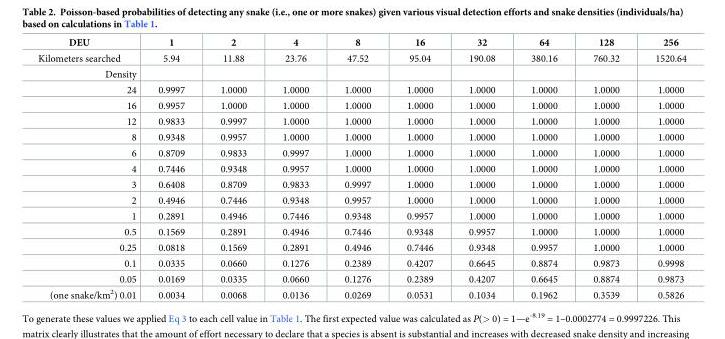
<table><thead><tr><td>DEU</td><td>1</td><td>2</td><td>4</td><td>8</td><td>16</td><td>32</td><td>64</td><td>128</td><td>256</td></tr></thead><tbody><tr><td>Kilometers searched</td><td>5.94</td><td>11.88</td><td>23.76</td><td>47.52</td><td>95.04</td><td>190.08</td><td>380.16</td><td>760.32</td><td>1520.64</td></tr><tr><td colspan="10">Density</td></tr><tr><td>24</td><td>0.9997</td><td>1.0000</td><td>1.0000</td><td>1.0000</td><td>1.0000</td><td>1.0000</td><td>1.0000</td><td>1.0000</td><td>1.0000</td></tr><tr><td>16</td><td>0.9957</td><td>1.0000</td><td>1.0000</td><td>1.0000</td><td>1.0000</td><td>1.0000</td><td>1.0000</td><td>1.0000</td><td>1.0000</td></tr><tr><td>12</td><td>0.9833</td><td>0.9997</td><td>1.0000</td><td>1.0000</td><td>1.0000</td><td>1.0000</td><td>1.0000</td><td>1.0000</td><td>1.0000</td></tr><tr><td>8</td><td>0.9348</td><td>0.9957</td><td>1.0000</td><td>1.0000</td><td>1.0000</td><td>1.0000</td><td>1.0000</td><td>1.0000</td><td>1.0000</td></tr><tr><td>6</td><td>0.8709</td><td>0.9833</td><td>0.9997</td><td>1.0000</td><td>1.0000</td><td>1.0000</td><td>1.0000</td><td>1.0000</td><td>1.0000</td></tr><tr><td>4</td><td>0.7446</td><td>0.9348</td><td>0.9957</td><td>1.0000</td><td>1.0000</td><td>1.0000</td><td>1.0000</td><td>1.0000</td><td>1.0000</td></tr><tr><td>3</td><td>0.6408</td><td>0.8709</td><td>0.9833</td><td>0.9997</td><td>1.0000</td><td>1.0000</td><td>1.0000</td><td>1.0000</td><td>1.0000</td></tr><tr><td>2</td><td>0.4946</td><td>0.7446</td><td>0.9348</td><td>0.9957</td><td>1.0000</td><td>1.0000</td><td>1.0000</td><td>1.0000</td><td>1.0000</td></tr><tr><td>1</td><td>0.2891</td><td>0.4946</td><td>0.7446</td><td>0.9348</td><td>0.9957</td><td>1.0000</td><td>1.0000</td><td>1.0000</td><td>1.0000</td></tr><tr><td>0.5</td><td>0.1569</td><td>0.2891</td><td>0.4946</td><td>0.7446</td><td>0.9348</td><td>0.9957</td><td>1.0000</td><td>1.0000</td><td>1.0000</td></tr><tr><td>0.25</td><td>0.0818</td><td>0.1569</td><td>0.2891</td><td>0.4946</td><td>0.7446</td><td>0.9348</td><td>0.9957</td><td>1.0000</td><td>1.0000</td></tr><tr><td>0.1</td><td>0.0335</td><td>0.0660</td><td>0.1276</td><td>0.2389</td><td>0.4207</td><td>0.6645</td><td>0.8874</td><td>0.9873</td><td>0.9998</td></tr><tr><td>0.05</td><td>0.0169</td><td>0.0335</td><td>0.0660</td><td>0.1276</td><td>0.2389</td><td>0.4207</td><td>0.6645</td><td>0.8874</td><td>0.9873</td></tr><tr><td>(one snake/km<sup>2</sup>) 0.01</td><td>0.0034</td><td>0.0068</td><td>0.0136</td><td>0.0269</td><td>0.0531</td><td>0.1034</td><td>0.1962</td><td>0.3539</td><td>0.5826</td></tr></tbody></table>